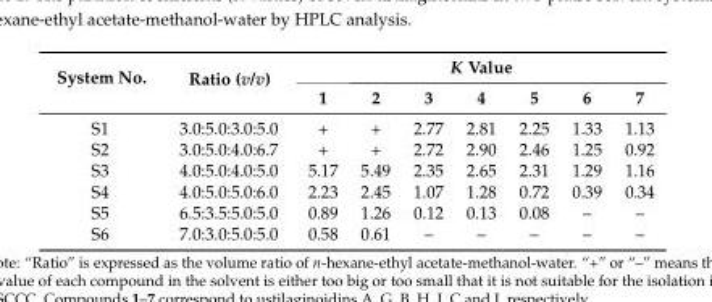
<table><thead><tr><td rowspan="2">System No.</td><td rowspan="2">Ratio (v/v)</td><td colspan="7">K Value</td></tr><tr><td>1</td><td>2</td><td>3</td><td>4</td><td>5</td><td>6</td><td>7</td></tr></thead><tbody><tr><td>S1</td><td>3.0:5.0:3.0:5.0</td><td>+</td><td>+</td><td>2.77</td><td>2.81</td><td>2.25</td><td>1.33</td><td>1.13</td></tr><tr><td>S2</td><td>3.0:5.0:4.0:6.7</td><td>+</td><td>+</td><td>2.72</td><td>2.90</td><td>2.46</td><td>1.25</td><td>0.92</td></tr><tr><td>S3</td><td>4.0:5.0:4.0:5.0</td><td>5.17</td><td>5.49</td><td>2.35</td><td>2.65</td><td>2.31</td><td>1.29</td><td>1.16</td></tr><tr><td>S4</td><td>4.0:5.0:5.0:6.0</td><td>2.23</td><td>2.45</td><td>1.07</td><td>1.28</td><td>0.72</td><td>0.39</td><td>0.34</td></tr><tr><td>S5</td><td>6.5:3.5:5.0:5.0</td><td>0.89</td><td>1.26</td><td>0.12</td><td>0.13</td><td>0.08</td><td>–</td><td>–</td></tr><tr><td>S6</td><td>7.0:3.0:5.0:5.0</td><td>0.58</td><td>0.61</td><td>–</td><td>–</td><td>–</td><td>–</td><td>–</td></tr></tbody></table>